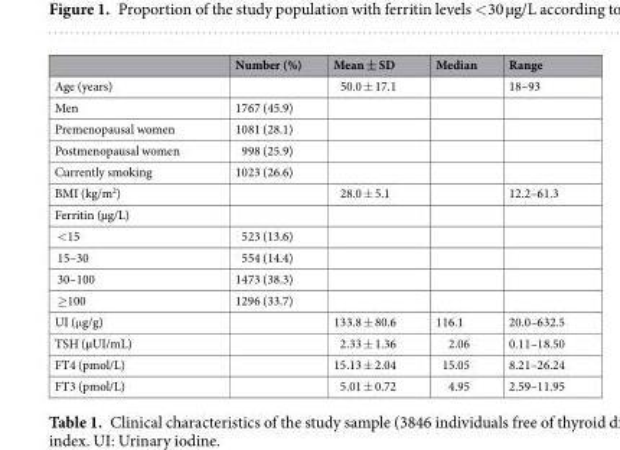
<table><thead><tr><td></td><td>Number (%)</td><td>Mean ± SD</td><td>Median</td><td>Range</td></tr></thead><tbody><tr><td>Age (years)</td><td></td><td>50.0 ± 17.1</td><td></td><td>18–93</td></tr><tr><td>Men</td><td>1767 (45.9)</td><td></td><td></td><td></td></tr><tr><td>Premenopausal women</td><td>1081 (28.1)</td><td></td><td></td><td></td></tr><tr><td>Postmenopausal women</td><td>998 (25.9)</td><td></td><td></td><td></td></tr><tr><td>Currently smoking</td><td>1023 (26.6)</td><td></td><td></td><td></td></tr><tr><td>BMI (kg/m<sup>2</sup>)</td><td></td><td>28.0 ± 5.1</td><td></td><td>12.2–61.3</td></tr><tr><td colspan="5">Ferritin (µg/L)</td></tr><tr><td>&lt;15</td><td>523 (13.6)</td><td></td><td></td><td></td></tr><tr><td>15–30</td><td>554 (14.4)</td><td></td><td></td><td></td></tr><tr><td>30–100</td><td>1473 (38.3)</td><td></td><td></td><td></td></tr><tr><td>≥100</td><td>1296 (33.7)</td><td></td><td></td><td></td></tr><tr><td>UI (μg/g)</td><td></td><td>133.8 ± 80.6</td><td>116.1</td><td>20.0–632.5</td></tr><tr><td>TSH (µUI/mL)</td><td></td><td>2.33 ± 1.36</td><td>2.06</td><td>0.11–18.50</td></tr><tr><td>FT4 (pmol/L)</td><td></td><td>15.13 ± 2.04</td><td>15.05</td><td>8.21–26.24</td></tr><tr><td>FT3 (pmol/L)</td><td></td><td>5.01 ± 0.72</td><td>4.95</td><td>2.59–11.95</td></tr></tbody></table>